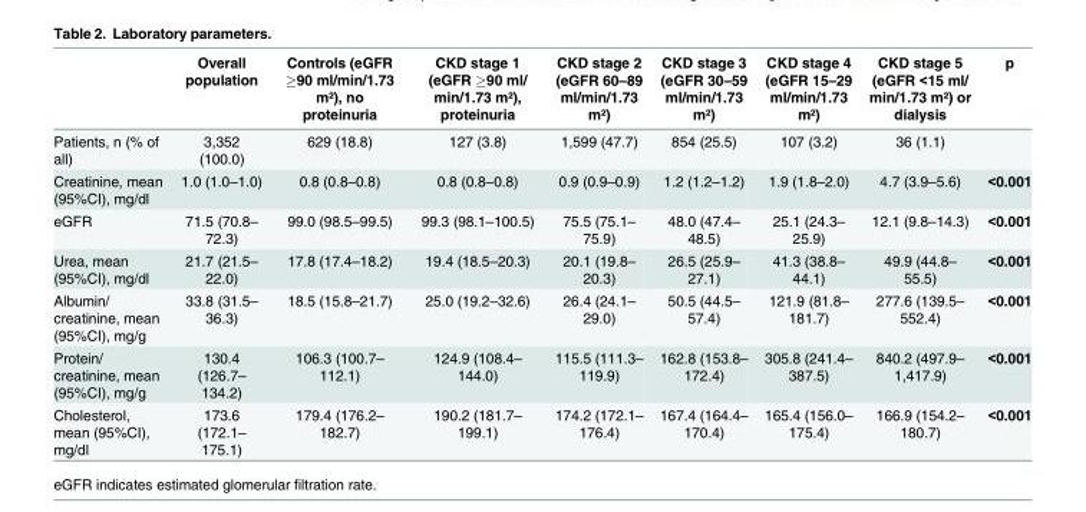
<table><thead><tr><td></td><td>Overall population</td><td>Controls (eGFR ≥90 ml/min/1.73 m²), no proteinuria</td><td>CKD stage 1 (eGFR ≥90 ml/ min/1.73 m²), proteinuria</td><td>CKD stage 2 (eGFR 60–89 ml/min/1.73 m²)</td><td>CKD stage 3 (eGFR 30–59 ml/min/1.73 m²)</td><td>CKD stage 4 (eGFR 15–29 ml/min/1.73 m²)</td><td>CKD stage 5 (eGFR &lt;15 ml/ min/1.73 m²) or dialysis</td><td>p</td></tr></thead><tbody><tr><td>Patients, n (% of all)</td><td>3,352 (100.0)</td><td>629 (18.8)</td><td>127 (3.8)</td><td>1,599 (47.7)</td><td>854 (25.5)</td><td>107 (3.2)</td><td>36 (1.1)</td><td></td></tr><tr><td>Creatinine, mean (95%CI), mg/dl</td><td>1.0 (1.0–1.0)</td><td>0.8 (0.8–0.8)</td><td>0.8 (0.8–0.8)</td><td>0.9 (0.9–0.9)</td><td>1.2 (1.2–1.2)</td><td>1.9 (1.8–2.0)</td><td>4.7 (3.9–5.6)</td><td>&lt;0.001</td></tr><tr><td>eGFR</td><td>71.5 (70.8– 72.3)</td><td>99.0 (98.5–99.5)</td><td>99.3 (98.1–100.5)</td><td>75.5 (75.1– 75.9)</td><td>48.0 (47.4– 48.5)</td><td>25.1 (24.3– 25.9)</td><td>12.1 (9.8–14.3)</td><td>&lt;0.001</td></tr><tr><td>Urea, mean (95%CI), mg/dl</td><td>21.7 (21.5– 22.0)</td><td>17.8 (17.4–18.2)</td><td>19.4 (18.5–20.3)</td><td>20.1 (19.8– 20.3)</td><td>26.5 (25.9– 27.1)</td><td>41.3 (38.8– 44.1)</td><td>49.9 (44.8– 55.5)</td><td>&lt;0.001</td></tr><tr><td>Albumin/ creatinine, mean (95%CI), mg/g</td><td>33.8 (31.5– 36.3)</td><td>18.5 (15.8–21.7)</td><td>25.0 (19.2–32.6)</td><td>26.4 (24.1– 29.0)</td><td>50.5 (44.5– 57.4)</td><td>121.9 (81.8– 181.7)</td><td>277.6 (139.5– 552.4)</td><td>&lt;0.001</td></tr><tr><td>Protein/ creatinine, mean (95%CI), mg/g</td><td>130.4 (126.7– 134.2)</td><td>106.3 (100.7– 112.1)</td><td>124.9 (108.4– 144.0)</td><td>115.5 (111.3– 119.9)</td><td>162.8 (153.8– 172.4)</td><td>305.8 (241.4– 387.5)</td><td>840.2 (497.9– 1,417.9)</td><td>&lt;0.001</td></tr><tr><td>Cholesterol, mean (95%CI), mg/dl</td><td>173.6 (172.1– 175.1)</td><td>179.4 (176.2– 182.7)</td><td>190.2 (181.7– 199.1)</td><td>174.2 (172.1– 176.4)</td><td>167.4 (164.4– 170.4)</td><td>165.4 (156.0– 175.4)</td><td>166.9 (154.2– 180.7)</td><td>&lt;0.001</td></tr></tbody></table>